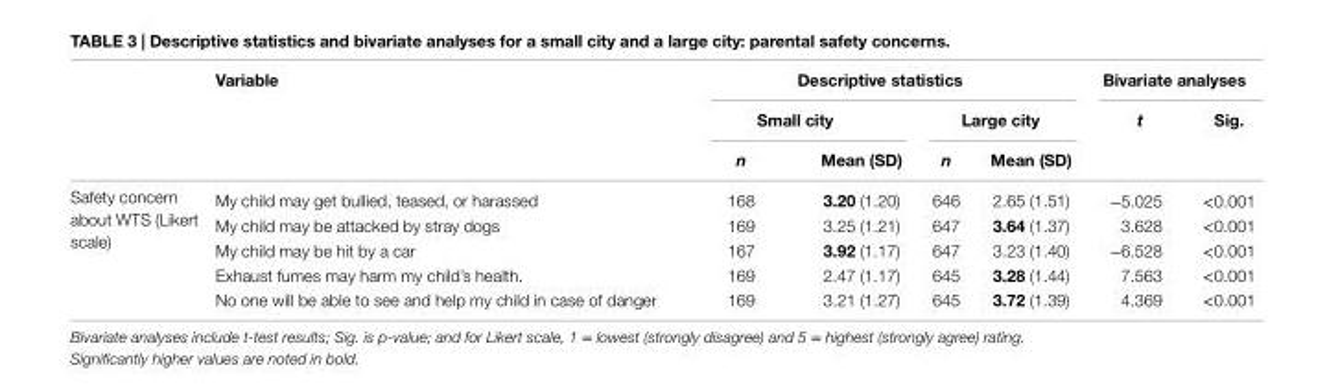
<table><thead><tr><td rowspan="3"></td><td rowspan="3">Variable</td><td colspan="4">Descriptive statistics</td><td colspan="2">Bivariate analyses</td></tr><tr><td colspan="2">small city</td><td colspan="2">large city</td><td rowspan="2">t</td><td rowspan="2">sig.</td></tr><tr><td>n</td><td>Mean (sD)</td><td>n</td><td>Mean (sD)</td></tr></thead><tbody><tr><td rowspan="5">Safety concern about WTS (Likert scale)</td><td>My child may get bullied, teased, or harassed</td><td>168</td><td>3.20 (1.20)</td><td>646</td><td>2.65 (1.51)</td><td>−5.025</td><td>&lt;0.001</td></tr><tr><td>My child may be attacked by stray dogs</td><td>169</td><td>3.25 (1.21)</td><td>647</td><td>3.64 (1.37)</td><td>3.628</td><td>&lt;0.001</td></tr><tr><td>My child may be hit by a car</td><td>167</td><td>3.92 (1.17)</td><td>647</td><td>3.23 (1.40)</td><td>−6.528</td><td>&lt;0.001</td></tr><tr><td>Exhaust fumes may harm my child’s health.</td><td>169</td><td>2.47 (1.17)</td><td>645</td><td>3.28 (1.44)</td><td>7.563</td><td>&lt;0.001</td></tr><tr><td>No one will be able to see and help my child in case of danger</td><td>169</td><td>3.21 (1.27)</td><td>645</td><td>3.72 (1.39)</td><td>4.369</td><td>&lt;0.001</td></tr></tbody></table>